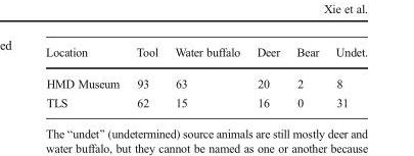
<table><thead><tr><td>Location</td><td>Tool</td><td>Water buffalo</td><td>Deer</td><td>Bear</td><td>Undet.</td></tr></thead><tbody><tr><td>HMD Museum</td><td>93</td><td>63</td><td>20</td><td>2</td><td>8</td></tr><tr><td>TLS</td><td>62</td><td>15</td><td>16</td><td>0</td><td>31</td></tr></tbody></table>